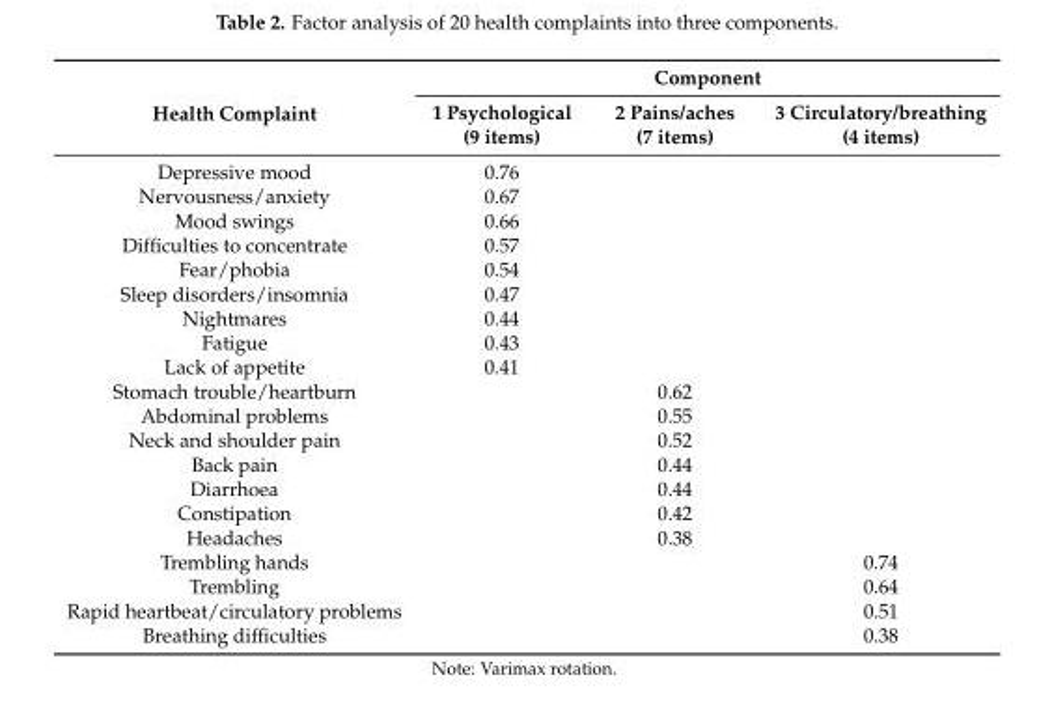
<table><thead><tr><td rowspan="2">Health Complaint</td><td colspan="3">Component</td></tr><tr><td>1 Psychological (9 items)</td><td>2 Pains/aches (7 items)</td><td>3 Circulatory/breathing (4 items)</td></tr></thead><tbody><tr><td>Depressive mood</td><td>0.76</td><td></td><td></td></tr><tr><td>Nervousness/anxiety</td><td>0.67</td><td></td><td></td></tr><tr><td>Mood swings</td><td>0.66</td><td></td><td></td></tr><tr><td>Difficulties to concentrate</td><td>0.57</td><td></td><td></td></tr><tr><td>Fear/phobia</td><td>0.54</td><td></td><td></td></tr><tr><td>Sleep disorders/insomnia</td><td>0.47</td><td></td><td></td></tr><tr><td>Nightmares</td><td>0.44</td><td></td><td></td></tr><tr><td>Fatigue</td><td>0.43</td><td></td><td></td></tr><tr><td>Lack of appetite</td><td>0.41</td><td></td><td></td></tr><tr><td>Stomach trouble/heartburn</td><td></td><td>0.62</td><td></td></tr><tr><td>Abdominal problems</td><td></td><td>0.55</td><td></td></tr><tr><td>Neck and shoulder pain</td><td></td><td>0.52</td><td></td></tr><tr><td>Back pain</td><td></td><td>0.44</td><td></td></tr><tr><td>Diarrhoea</td><td></td><td>0.44</td><td></td></tr><tr><td>Constipation</td><td></td><td>0.42</td><td></td></tr><tr><td>Headaches</td><td></td><td>0.38</td><td></td></tr><tr><td>Trembling hands</td><td></td><td></td><td>0.74</td></tr><tr><td>Trembling</td><td></td><td></td><td>0.64</td></tr><tr><td>Rapid heartbeat/circulatory problems</td><td></td><td></td><td>0.51</td></tr><tr><td>Breathing difficulties</td><td></td><td></td><td>0.38</td></tr></tbody></table>